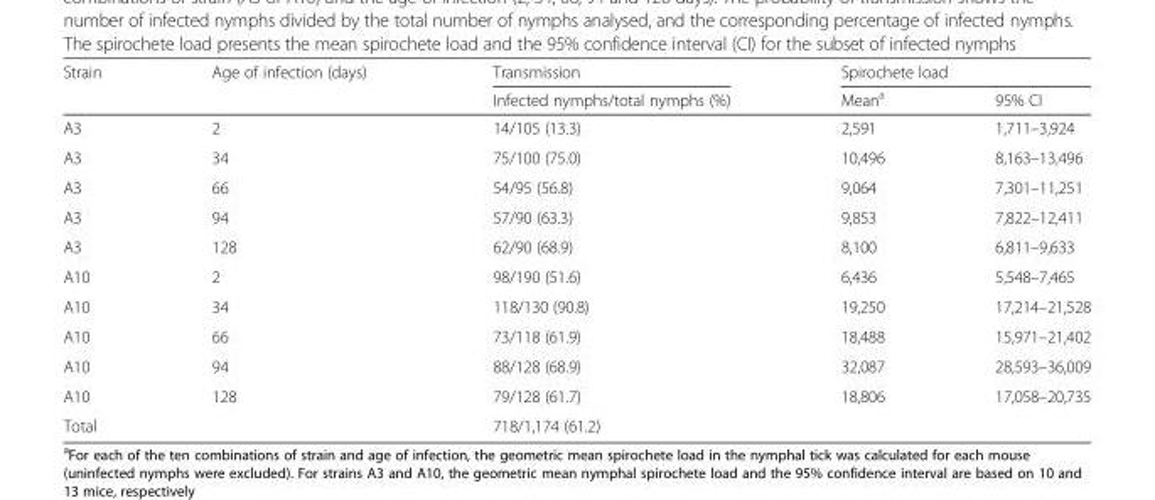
<table><thead><tr><td rowspan="2">Strain</td><td rowspan="2">Age of infection (days)</td><td rowspan="2">Transmission Infected nymphs/total nymphs (%)</td><td colspan="2">Spirochete load</td></tr><tr><td>Mean<sup>a</sup></td><td>95% CI</td></tr></thead><tbody><tr><td>A3</td><td>2</td><td>14/105 (13.3)</td><td>2,591</td><td>1,711–3,924</td></tr><tr><td>A3</td><td>34</td><td>75/100 (75.0)</td><td>10,496</td><td>8,163–13,496</td></tr><tr><td>A3</td><td>66</td><td>54/95 (56.8)</td><td>9,064</td><td>7,301–11,251</td></tr><tr><td>A3</td><td>94</td><td>57/90 (63.3)</td><td>9,853</td><td>7,822–12,411</td></tr><tr><td>A3</td><td>128</td><td>62/90 (68.9)</td><td>8,100</td><td>6,811–9,633</td></tr><tr><td>A10</td><td>2</td><td>98/190 (51.6)</td><td>6,436</td><td>5,548–7,465</td></tr><tr><td>A10</td><td>34</td><td>118/130 (90.8)</td><td>19,250</td><td>17,214–21,528</td></tr><tr><td>A10</td><td>66</td><td>73/118 (61.9)</td><td>18,488</td><td>15,971–21,402</td></tr><tr><td>A10</td><td>94</td><td>88/128 (68.9)</td><td>32,087</td><td>28,593–36,009</td></tr><tr><td>A10</td><td>128</td><td>79/128 (61.7)</td><td>18,806</td><td>17,058–20,735</td></tr><tr><td>Total</td><td></td><td>718/1,174 (61.2)</td><td></td><td></td></tr></tbody></table>